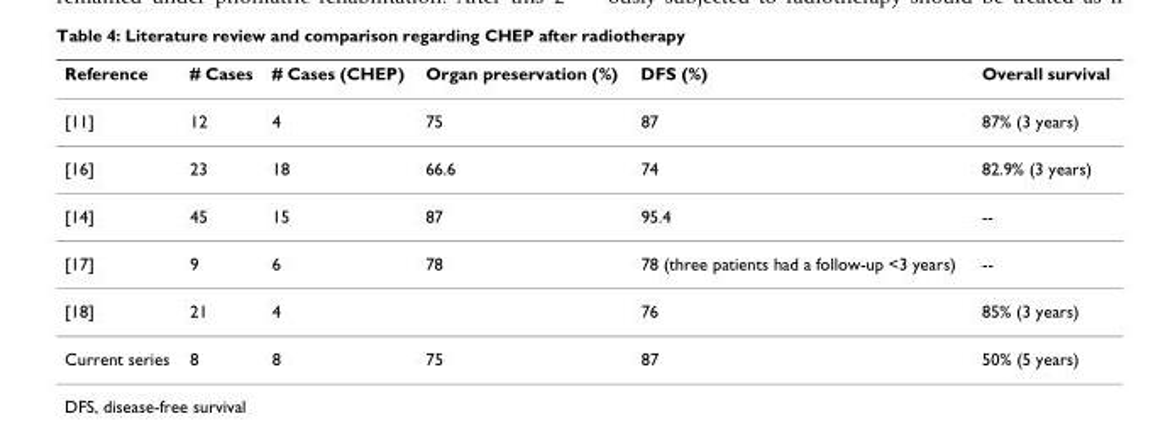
<table><thead><tr><td>Reference</td><td># Cases</td><td># Cases (CHEP)</td><td>Organ preservation (%)</td><td>DFS (%)</td><td>Overall survival</td></tr></thead><tbody><tr><td>[11]</td><td>12</td><td>4</td><td>75</td><td>87</td><td>87% (3 years)</td></tr><tr><td>[16]</td><td>23</td><td>18</td><td>66.6</td><td>74</td><td>82.9% (3 years)</td></tr><tr><td>[14]</td><td>45</td><td>15</td><td>87</td><td>95.4</td><td>--</td></tr><tr><td>[17]</td><td>9</td><td>6</td><td>78</td><td>78 (three patients had a follow-up &lt;3 years)</td><td>--</td></tr><tr><td>[18]</td><td>21</td><td>4</td><td></td><td>76</td><td>85% (3 years)</td></tr><tr><td>Current series</td><td>8</td><td>8</td><td>75</td><td>87</td><td>50% (5 years)</td></tr></tbody></table>